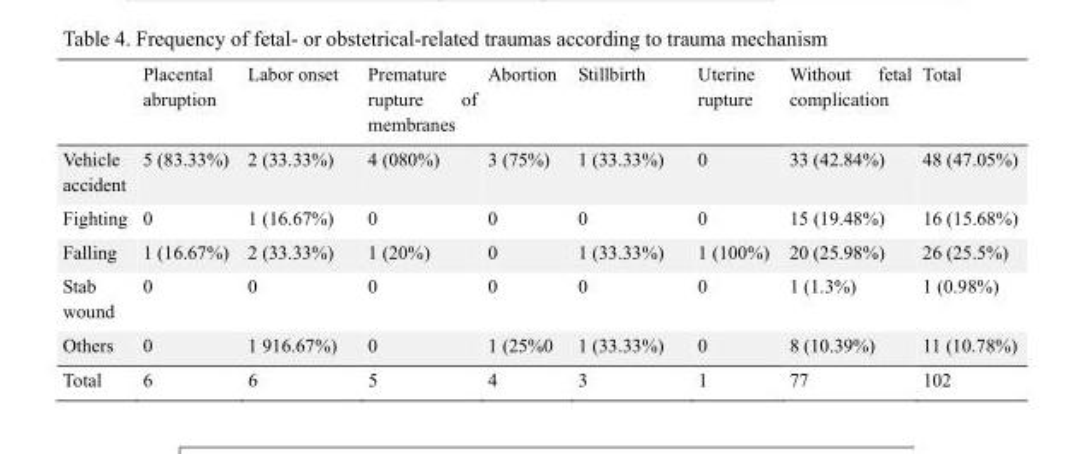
<table><thead><tr><td></td><td>Placental abruption</td><td>Labor onset</td><td>Premature rupture of membranes</td><td>Abortion</td><td>Stillbirth</td><td>Uterine rupture</td><td>Without fetal complication</td><td>Total</td></tr></thead><tbody><tr><td>Vehicle accident</td><td>5 (83.33%)</td><td>2 (33.33%)</td><td>4 (080%)</td><td>3 (75%)</td><td>1 (33.33%)</td><td>0</td><td>33 (42.84%)</td><td>48 (47.05%)</td></tr><tr><td>Fighting</td><td>0</td><td>1 (16.67%)</td><td>0</td><td>0</td><td>0</td><td>0</td><td>15 (19.48%)</td><td>16 (15.68%)</td></tr><tr><td>Falling</td><td>1 (16.67%)</td><td>2 (33.33%)</td><td>1 (20%)</td><td>0</td><td>1 (33.33%)</td><td>1 (100%)</td><td>20 (25.98%)</td><td>26 (25.5%)</td></tr><tr><td>Stab wound</td><td>0</td><td>0</td><td>0</td><td>0</td><td>0</td><td>0</td><td>1 (1.3%)</td><td>1 (0.98%)</td></tr><tr><td>Others</td><td>0</td><td>1 916.67%)</td><td>0</td><td>1 (25%0</td><td>1 (33.33%)</td><td>0</td><td>8 (10.39%)</td><td>11 (10.78%)</td></tr><tr><td>Total</td><td>6</td><td>6</td><td>5</td><td>4</td><td>3</td><td>1</td><td>77</td><td>102</td></tr></tbody></table>